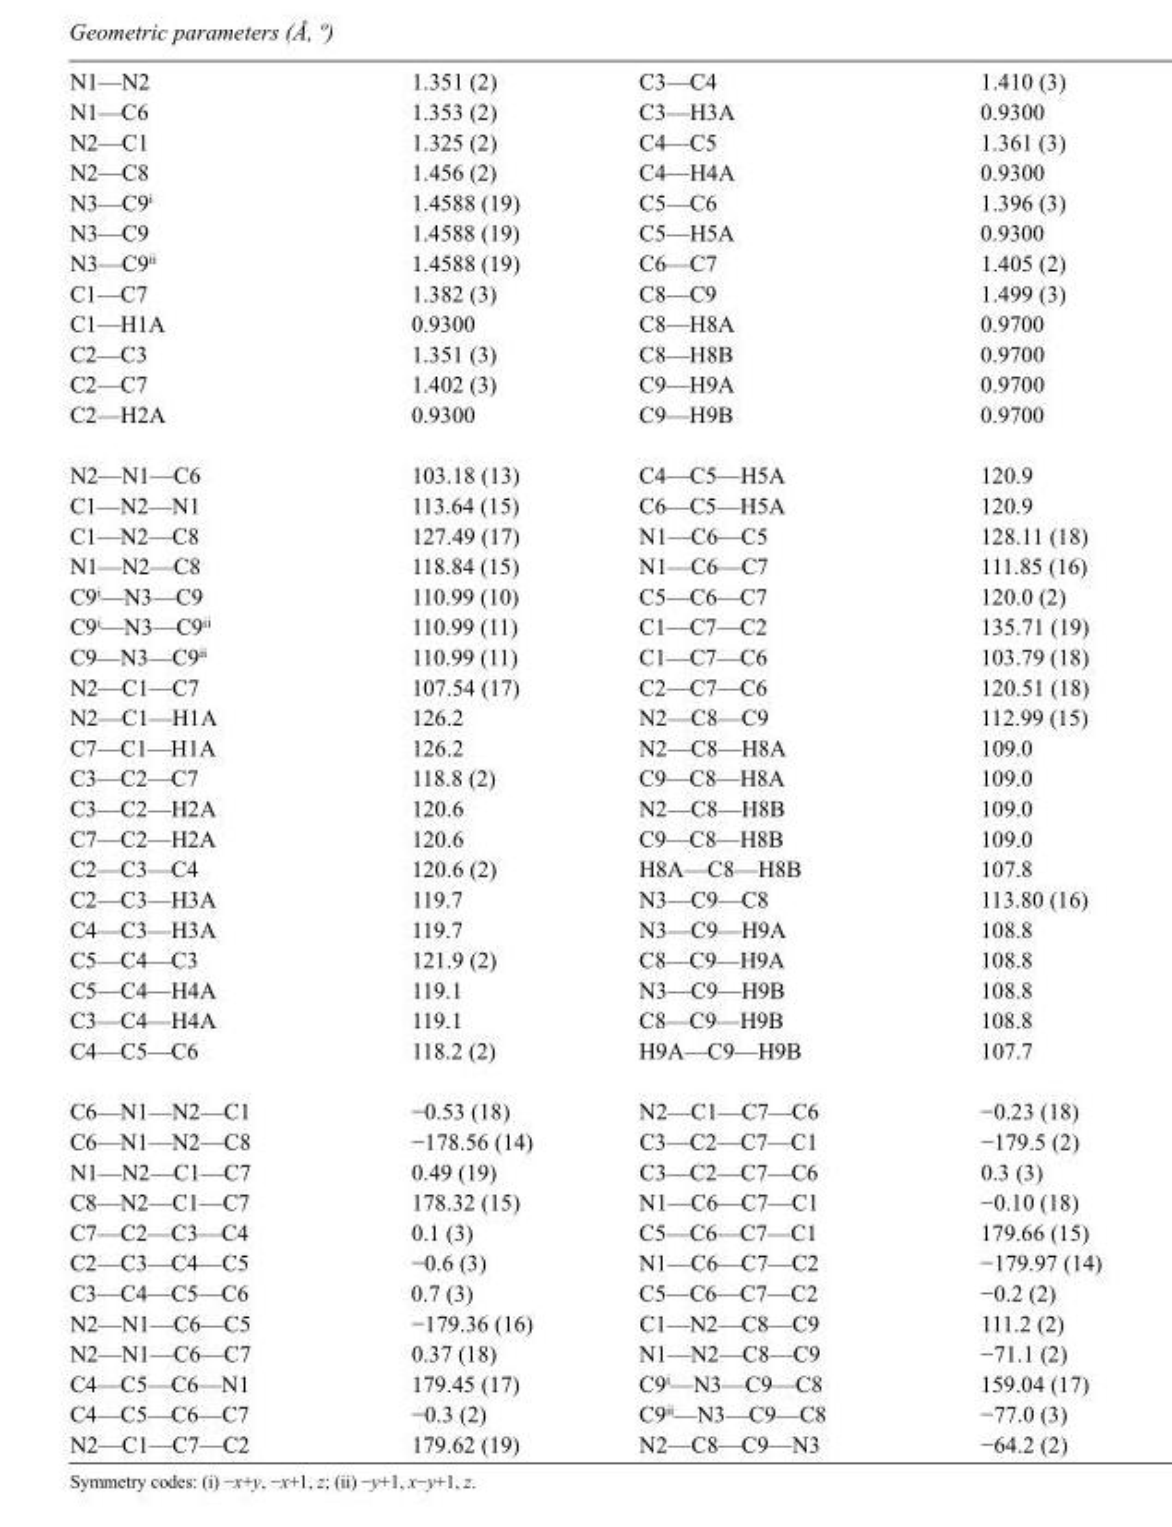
<table><tbody><tr><td>N1—N2</td><td>1.351 (2)</td><td>C3—C4</td><td>1.410 (3)</td></tr><tr><td>N1—C6</td><td>1.353 (2)</td><td>C3—H3A</td><td>0.9300</td></tr><tr><td>N2—C1</td><td>1.325 (2)</td><td>C4—C5</td><td>1.361 (3)</td></tr><tr><td>N2—C8</td><td>1.456 (2)</td><td>C4—H4A</td><td>0.9300</td></tr><tr><td>N3—C9<sup>i</sup></td><td>1.4588 (19)</td><td>C5—C6</td><td>1.396 (3)</td></tr><tr><td>N3—C9</td><td>1.4588 (19)</td><td>C5—H5A</td><td>0.9300</td></tr><tr><td>N3—C9<sup>ii</sup></td><td>1.4588 (19)</td><td>C6—C7</td><td>1.405 (2)</td></tr><tr><td>C1—C7</td><td>1.382 (3)</td><td>C8—C9</td><td>1.499 (3)</td></tr><tr><td>C1—H1A</td><td>0.9300</td><td>C8—H8A</td><td>0.9700</td></tr><tr><td>C2—C3</td><td>1.351 (3)</td><td>C8—H8B</td><td>0.9700</td></tr><tr><td>C2—C7</td><td>1.402 (3)</td><td>C9—H9A</td><td>0.9700</td></tr><tr><td>C2—H2A</td><td>0.9300</td><td>C9—H9B</td><td>0.9700</td></tr><tr><td>N2—N1—C6</td><td>103.18 (13)</td><td>C4—C5—H5A</td><td>120.9</td></tr><tr><td>C1—N2—N1</td><td>113.64 (15)</td><td>C6—C5—H5A</td><td>120.9</td></tr><tr><td>C1—N2—C8</td><td>127.49 (17)</td><td>N1—C6—C5</td><td>128.11 (18)</td></tr><tr><td>N1—N2—C8</td><td>118.84 (15)</td><td>N1—C6—C7</td><td>111.85 (16)</td></tr><tr><td>C9<sup>i</sup>—N3—C9</td><td>110.99 (10)</td><td>C5—C6—C7</td><td>120.0 (2)</td></tr><tr><td>C9<sup>i</sup>—N3—C9<sup>ii</sup></td><td>110.99 (11)</td><td>C1—C7—C2</td><td>135.71 (19)</td></tr><tr><td>C9—N3—C9<sup>ii</sup></td><td>110.99 (11)</td><td>C1—C7—C6</td><td>103.79 (18)</td></tr><tr><td>N2—C1—C7</td><td>107.54 (17)</td><td>C2—C7—C6</td><td>120.51 (18)</td></tr><tr><td>N2—C1—H1A</td><td>126.2</td><td>N2—C8—C9</td><td>112.99 (15)</td></tr><tr><td>C7—C1—H1A</td><td>126.2</td><td>N2—C8—H8A</td><td>109.0</td></tr><tr><td>C3—C2—C7</td><td>118.8 (2)</td><td>C9—C8—H8A</td><td>109.0</td></tr><tr><td>C3—C2—H2A</td><td>120.6</td><td>N2—C8—H8B</td><td>109.0</td></tr><tr><td>C7—C2—H2A</td><td>120.6</td><td>C9—C8—H8B</td><td>109.0</td></tr><tr><td>C2—C3—C4</td><td>120.6 (2)</td><td>H8A—C8—H8B</td><td>107.8</td></tr><tr><td>C2—C3—H3A</td><td>119.7</td><td>N3—C9—C8</td><td>113.80 (16)</td></tr><tr><td>C4—C3—H3A</td><td>119.7</td><td>N3—C9—H9A</td><td>108.8</td></tr><tr><td>C5—C4—C3</td><td>121.9 (2)</td><td>C8—C9—H9A</td><td>108.8</td></tr><tr><td>C5—C4—H4A</td><td>119.1</td><td>N3—C9—H9B</td><td>108.8</td></tr><tr><td>C3—C4—H4A</td><td>119.1</td><td>C8—C9—H9B</td><td>108.8</td></tr><tr><td>C4—C5—C6</td><td>118.2 (2)</td><td>H9A—C9—H9B</td><td>107.7</td></tr><tr><td>C6—N1—N2—C1</td><td>−0.53 (18)</td><td>N2—C1—C7—C6</td><td>−0.23 (18)</td></tr><tr><td>C6—N1—N2—C8</td><td>−178.56 (14)</td><td>C3—C2—C7—C1</td><td>−179.5 (2)</td></tr><tr><td>N1—N2—C1—C7</td><td>0.49 (19)</td><td>C3—C2—C7—C6</td><td>0.3 (3)</td></tr><tr><td>C8—N2—C1—C7</td><td>178.32 (15)</td><td>N1—C6—C7—C1</td><td>−0.10 (18)</td></tr><tr><td>C7—C2—C3—C4</td><td>0.1 (3)</td><td>C5—C6—C7—C1</td><td>179.66 (15)</td></tr><tr><td>C2—C3—C4—C5</td><td>−0.6 (3)</td><td>N1—C6—C7—C2</td><td>−179.97 (14)</td></tr><tr><td>C3—C4—C5—C6</td><td>0.7 (3)</td><td>C5—C6—C7—C2</td><td>−0.2 (2)</td></tr><tr><td>N2—N1—C6—C5</td><td>−179.36 (16)</td><td>C1—N2—C8—C9</td><td>111.2 (2)</td></tr><tr><td>N2—N1—C6—C7</td><td>0.37 (18)</td><td>N1—N2—C8—C9</td><td>−71.1 (2)</td></tr><tr><td>C4—C5—C6—N1</td><td>179.45 (17)</td><td>C9<sup>i</sup>—N3—C9—C8</td><td>159.04 (17)</td></tr><tr><td>C4—C5—C6—C7</td><td>−0.3 (2)</td><td>C9<sup>ii</sup>—N3—C9—C8</td><td>−77.0 (3)</td></tr><tr><td>N2—C1—C7—C2</td><td>179.62 (19)</td><td>N2—C8—C9—N3</td><td>−64.2 (2)</td></tr></tbody></table>